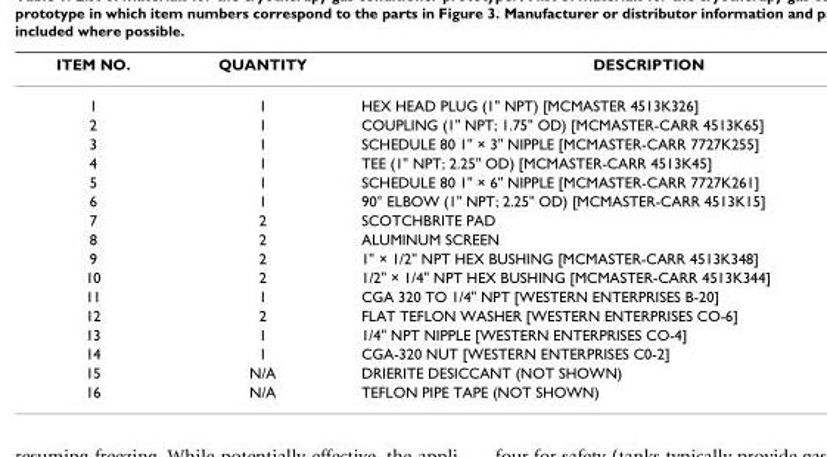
<table><thead><tr><td>ITEM NO.</td><td>QUANTITY</td><td>DESCRIPTION</td></tr></thead><tbody><tr><td>1</td><td>1</td><td>HEX HEAD PLUG (1&quot; NPT) [MCMASTER 4513K326]</td></tr><tr><td>2</td><td>1</td><td>COUPLING (1&quot; NPT; 1.75&quot; OD) [MCMASTER-CARR 4513K65]</td></tr><tr><td>3</td><td>1</td><td>SCHEDULE 80 1&quot; × 3&quot; NIPPLE [MCMASTER-CARR 7727K255]</td></tr><tr><td>4</td><td>1</td><td>TEE (1&quot; NPT; 2.25&quot; OD) [MCMASTER-CARR 4513K45]</td></tr><tr><td>5</td><td>1</td><td>SCHEDULE 80 1&quot; × 6&quot; NIPPLE [MCMASTER-CARR 7727K261]</td></tr><tr><td>6</td><td>1</td><td>90° ELBOW (1&quot; NPT; 2.25&quot; OD) [MCMASTER-CARR 4513K15]</td></tr><tr><td>7</td><td>2</td><td>SCOTCHBRITE PAD</td></tr><tr><td>8</td><td>2</td><td>ALUMINUM SCREEN</td></tr><tr><td>9</td><td>2</td><td>1&quot; × 1/2&quot; NPT HEX BUSHING [MCMASTER-CARR 4513K348]</td></tr><tr><td>10</td><td>2</td><td>1/2&quot; × 1/4&quot; NPT HEX BUSHING [MCMASTER-CARR 4513K344]</td></tr><tr><td>11</td><td>1</td><td>CGA 320 TO 1/4&quot; NPT [WESTERN ENTERPRISES B-20]</td></tr><tr><td>12</td><td>2</td><td>FLAT TEFLON WASHER [WESTERN ENTERPRISES CO-6]</td></tr><tr><td>13</td><td>1</td><td>1/4&quot; NPT NIPPLE [WESTERN ENTERPRISES CO-4]</td></tr><tr><td>14</td><td>1</td><td>CGA-320 NUT [WESTERN ENTERPRISES C0-2]</td></tr><tr><td>15</td><td>N/A</td><td>DRIERITE DESICCANT (NOT SHOWN)</td></tr><tr><td>16</td><td>N/A</td><td>TEFLON PIPE TAPE (NOT SHOWN)</td></tr></tbody></table>